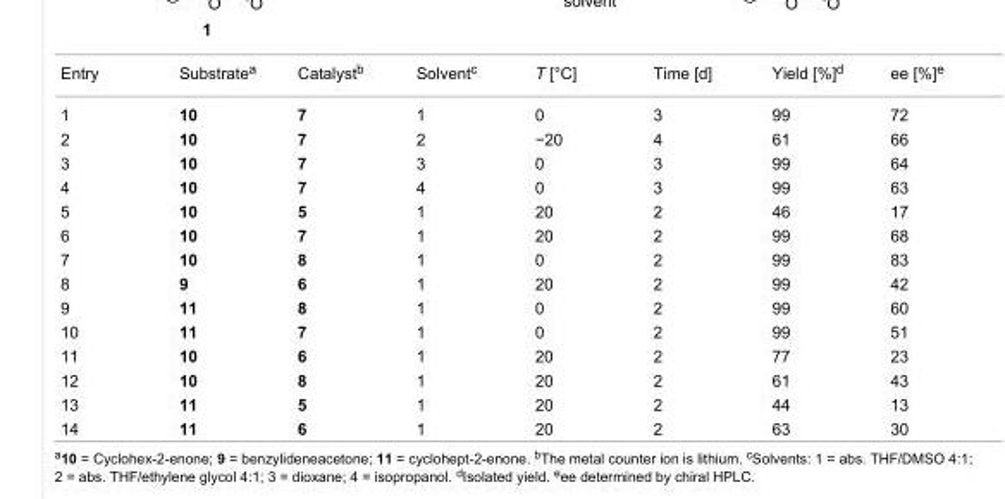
<table><tbody><tr><td>Entry</td><td>Substrate<sup>a</sup></td><td>Catalyst<sup>b</sup></td><td>Solvent<sup>c</sup></td><td>T [°C]</td><td>Time [d]</td><td>Yield [%]<sup>d</sup></td><td>ee [%]<sup>e</sup></td></tr><tr><td>1</td><td>10</td><td>7</td><td>1</td><td>0</td><td>3</td><td>99</td><td>72</td></tr><tr><td>2</td><td>10</td><td>7</td><td>2</td><td>−20</td><td>4</td><td>61</td><td>66</td></tr><tr><td>3</td><td>10</td><td>7</td><td>3</td><td>0</td><td>3</td><td>99</td><td>64</td></tr><tr><td>4</td><td>10</td><td>7</td><td>4</td><td>0</td><td>3</td><td>99</td><td>63</td></tr><tr><td>5</td><td>10</td><td>5</td><td>1</td><td>20</td><td>2</td><td>46</td><td>17</td></tr><tr><td>6</td><td>10</td><td>7</td><td>1</td><td>20</td><td>2</td><td>99</td><td>68</td></tr><tr><td>7</td><td>10</td><td>8</td><td>1</td><td>0</td><td>2</td><td>99</td><td>83</td></tr><tr><td>8</td><td>9</td><td>6</td><td>1</td><td>20</td><td>2</td><td>99</td><td>42</td></tr><tr><td>9</td><td>11</td><td>8</td><td>1</td><td>0</td><td>2</td><td>99</td><td>60</td></tr><tr><td>10</td><td>11</td><td>7</td><td>1</td><td>0</td><td>2</td><td>99</td><td>51</td></tr><tr><td>11</td><td>10</td><td>6</td><td>1</td><td>20</td><td>2</td><td>77</td><td>23</td></tr><tr><td>12</td><td>10</td><td>8</td><td>1</td><td>20</td><td>2</td><td>61</td><td>43</td></tr><tr><td>13</td><td>11</td><td>5</td><td>1</td><td>20</td><td>2</td><td>44</td><td>13</td></tr><tr><td>14</td><td>11</td><td>6</td><td>1</td><td>20</td><td>2</td><td>63</td><td>30</td></tr></tbody></table>